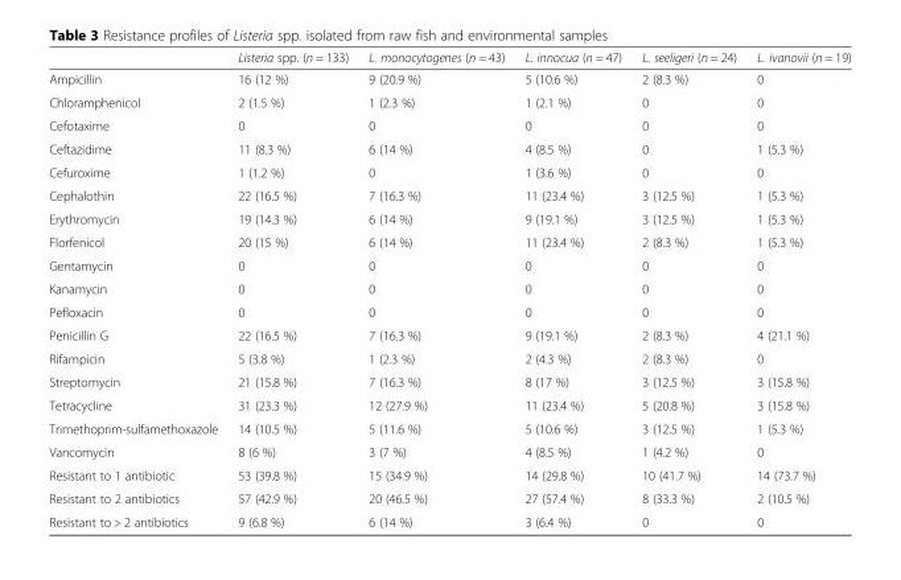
<table><thead><tr><td></td><td>Listeria spp. (n = 133)</td><td>L. monocytogenes (n = 43)</td><td>L. innocua (n = 47)</td><td>L. seeligeri (n = 24)</td><td>L. ivanovii (n = 19)</td></tr></thead><tbody><tr><td>Ampicillin</td><td>16 (12 %)</td><td>9 (20.9 %)</td><td>5 (10.6 %)</td><td>2 (8.3 %)</td><td>0</td></tr><tr><td>Chloramphenicol</td><td>2 (1.5 %)</td><td>1 (2.3 %)</td><td>1 (2.1 %)</td><td>0</td><td>0</td></tr><tr><td>Cefotaxime</td><td>0</td><td>0</td><td>0</td><td>0</td><td>0</td></tr><tr><td>Ceftazidime</td><td>11 (8.3 %)</td><td>6 (14 %)</td><td>4 (8.5 %)</td><td>0</td><td>1 (5.3 %)</td></tr><tr><td>Cefuroxime</td><td>1 (1.2 %)</td><td>0</td><td>1 (3.6 %)</td><td>0</td><td>0</td></tr><tr><td>Cephalothin</td><td>22 (16.5 %)</td><td>7 (16.3 %)</td><td>11 (23.4 %)</td><td>3 (12.5 %)</td><td>1 (5.3 %)</td></tr><tr><td>Erythromycin</td><td>19 (14.3 %)</td><td>6 (14 %)</td><td>9 (19.1 %)</td><td>3 (12.5 %)</td><td>1 (5.3 %)</td></tr><tr><td>Florfenicol</td><td>20 (15 %)</td><td>6 (14 %)</td><td>11 (23.4 %)</td><td>2 (8.3 %)</td><td>1 (5.3 %)</td></tr><tr><td>Gentamycin</td><td>0</td><td>0</td><td>0</td><td>0</td><td>0</td></tr><tr><td>Kanamycin</td><td>0</td><td>0</td><td>0</td><td>0</td><td>0</td></tr><tr><td>Pefloxacin</td><td>0</td><td>0</td><td>0</td><td>0</td><td>0</td></tr><tr><td>Penicillin G</td><td>22 (16.5 %)</td><td>7 (16.3 %)</td><td>9 (19.1 %)</td><td>2 (8.3 %)</td><td>4 (21.1 %)</td></tr><tr><td>Rifampicin</td><td>5 (3.8 %)</td><td>1 (2.3 %)</td><td>2 (4.3 %)</td><td>2 (8.3 %)</td><td>0</td></tr><tr><td>Streptomycin</td><td>21 (15.8 %)</td><td>7 (16.3 %)</td><td>8 (17 %)</td><td>3 (12.5 %)</td><td>3 (15.8 %)</td></tr><tr><td>Tetracycline</td><td>31 (23.3 %)</td><td>12 (27.9 %)</td><td>11 (23.4 %)</td><td>5 (20.8 %)</td><td>3 (15.8 %)</td></tr><tr><td>Trimethoprim-sulfamethoxazole</td><td>14 (10.5 %)</td><td>5 (11.6 %)</td><td>5 (10.6 %)</td><td>3 (12.5 %)</td><td>1 (5.3 %)</td></tr><tr><td>Vancomycin</td><td>8 (6 %)</td><td>3 (7 %)</td><td>4 (8.5 %)</td><td>1 (4.2 %)</td><td>0</td></tr><tr><td>Resistant to 1 antibiotic</td><td>53 (39.8 %)</td><td>15 (34.9 %)</td><td>14 (29.8 %)</td><td>10 (41.7 %)</td><td>14 (73.7 %)</td></tr><tr><td>Resistant to 2 antibiotics</td><td>57 (42.9 %)</td><td>20 (46.5 %)</td><td>27 (57.4 %)</td><td>8 (33.3 %)</td><td>2 (10.5 %)</td></tr><tr><td>Resistant to &gt; 2 antibiotics</td><td>9 (6.8 %)</td><td>6 (14 %)</td><td>3 (6.4 %)</td><td>0</td><td>0</td></tr></tbody></table>